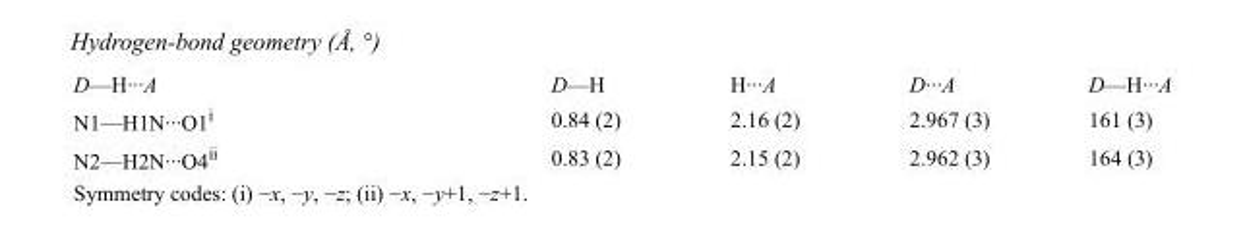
<table><tbody><tr><td>D—H···A</td><td>D—H</td><td>H···A</td><td>D···A</td><td>D—H···A</td></tr><tr><td>N1—H1N···O1<sup>i</sup></td><td>0.84 (2)</td><td>2.16 (2)</td><td>2.967 (3)</td><td>161 (3)</td></tr><tr><td>N2—H2N···O4<sup>ii</sup></td><td>0.83 (2)</td><td>2.15 (2)</td><td>2.962 (3)</td><td>164 (3)</td></tr></tbody></table>